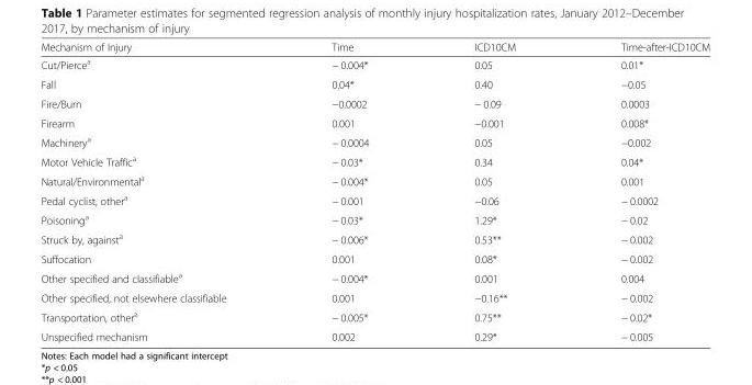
<table><thead><tr><td>Mechanism of Injury</td><td>Time</td><td>ICD10CM</td><td>Time-after-ICD10CM</td></tr></thead><tbody><tr><td>Cut/Pierce<sup>a</sup></td><td>− 0.004*</td><td>0.05</td><td>0.01*</td></tr><tr><td>Fall</td><td>0.04*</td><td>0.40</td><td>−0.05</td></tr><tr><td>Fire/Burn</td><td>−0.0002</td><td>− 0.09</td><td>0.0003</td></tr><tr><td>Firearm</td><td>0.001</td><td>−0.001</td><td>0.008*</td></tr><tr><td>Machinery<sup>a</sup></td><td>− 0.0004</td><td>0.05</td><td>−0.002</td></tr><tr><td>Motor Vehicle Traffic<sup>a</sup></td><td>− 0.03*</td><td>0.34</td><td>0.04*</td></tr><tr><td>Natural/Environmental<sup>a</sup></td><td>− 0.004*</td><td>0.05</td><td>0.001</td></tr><tr><td>Pedal cyclist, other<sup>a</sup></td><td>− 0.001</td><td>−0.06</td><td>− 0.0002</td></tr><tr><td>Poisoning<sup>a</sup></td><td>− 0.03*</td><td>1.29*</td><td>− 0.02</td></tr><tr><td>Struck by, against<sup>a</sup></td><td>− 0.006*</td><td>0.53**</td><td>− 0.002</td></tr><tr><td>Suffocation</td><td>0.001</td><td>0.08*</td><td>− 0.002</td></tr><tr><td>Other specified and classifiable<sup>a</sup></td><td>− 0.004*</td><td>0.001</td><td>0.004</td></tr><tr><td>Other specified, not elsewhere classifiable</td><td>0.001</td><td>−0.16**</td><td>− 0.002</td></tr><tr><td>Transportation, other<sup>a</sup></td><td>− 0.005*</td><td>0.75**</td><td>− 0.02*</td></tr><tr><td>Unspecified mechanism</td><td>0.002</td><td>0.29*</td><td>− 0.005</td></tr></tbody></table>